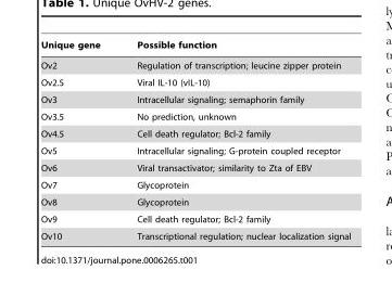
<table><thead><tr><td>Unique gene</td><td>Possible function</td></tr></thead><tbody><tr><td>Ov2</td><td>Regulation of transcription; leucine zipper protein</td></tr><tr><td>Ov2.5</td><td>Viral IL-10 (vIL-10)</td></tr><tr><td>Ov3</td><td>Intracellular signaling; semaphorin family</td></tr><tr><td>Ov3.5</td><td>No prediction, unknown</td></tr><tr><td>Ov4.5</td><td>Cell death regulator; Bcl-2 family</td></tr><tr><td>Ov5</td><td>Intracellular signaling; G-protein coupled receptor</td></tr><tr><td>Ov6</td><td>Viral transactivator; similarity to Zta of EBV</td></tr><tr><td>Ov7</td><td>Glycoprotein</td></tr><tr><td>Ov8</td><td>Glycoprotein</td></tr><tr><td>Ov9</td><td>Cell death regulator; Bcl-2 family</td></tr><tr><td>Ov10</td><td>Transcriptional regulation; nuclear localization signal</td></tr></tbody></table>